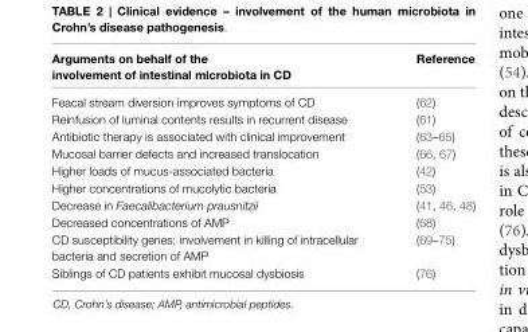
<table><thead><tr><td>Arguments on behalf of the involvement of intestinal microbiota in CD</td><td>Reference</td></tr></thead><tbody><tr><td>Feacal stream diversion improves symptoms of CD</td><td>(62)</td></tr><tr><td>Reinfusion of luminal contents results in recurrent disease</td><td>(61)</td></tr><tr><td>Antibiotic therapy is associated with clinical improvement</td><td>(63–65)</td></tr><tr><td>Mucosal barrier defects and increased translocation</td><td>(66, 67)</td></tr><tr><td>Higher loads of mucus-associated bacteria</td><td>(42)</td></tr><tr><td>Higher concentrations of mucolytic bacteria</td><td>(53)</td></tr><tr><td>Decrease in Faecalibacterium prausnitzii</td><td>(41, 46, 48)</td></tr><tr><td>Decreased concentrations of AMP</td><td>(68)</td></tr><tr><td>CD susceptibility genes: involvement in killing of intracellular bacteria and secretion of AMP</td><td>(69–75)</td></tr><tr><td>Siblings of CD patients exhibit mucosal dysbiosis</td><td>(76)</td></tr></tbody></table>